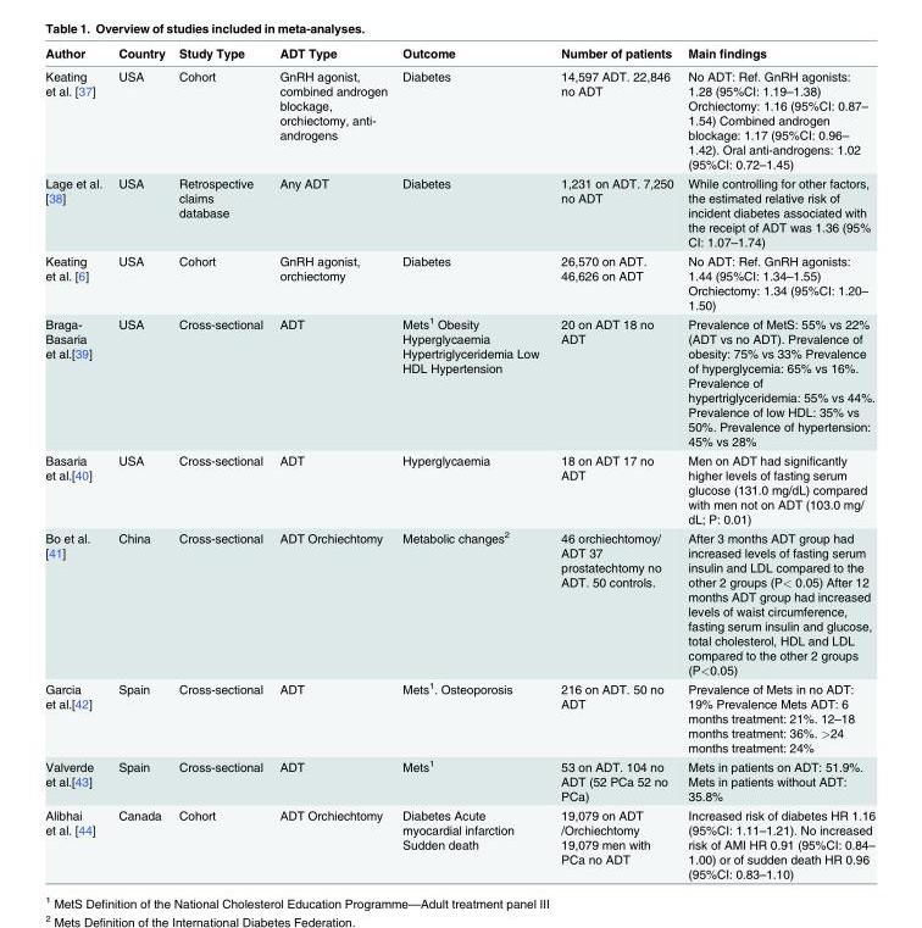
<table><thead><tr><td>Author</td><td>Country</td><td>Study Type</td><td>ADT Type</td><td>Outcome</td><td>Number of patients</td><td>Main findings</td></tr></thead><tbody><tr><td>Keating et al. [37]</td><td>USA</td><td>Cohort</td><td>GnRH agonist, combined androgen blockage, orchiectomy, anti- androgens</td><td>Diabetes</td><td>14,597 ADT. 22,846 no ADT</td><td>No ADT: Ref. GnRH agonists: 1.28 (95%CI: 1.19–1.38) Orchiectomy: 1.16 (95%CI: 0.87– 1.54) Combined androgen blockage: 1.17 (95%CI: 0.96– 1.42). Oral anti-androgens: 1.02 (95%CI: 0.72–1.45)</td></tr><tr><td>Lage et al. [38]</td><td>USA</td><td>Retrospective claims database</td><td>Any ADT</td><td>Diabetes</td><td>1,231 on ADT. 7,250 no ADT</td><td>While controlling for other factors, the estimated relative risk of incident diabetes associated with the receipt of ADT was 1.36 (95% CI: 1.07–1.74)</td></tr><tr><td>Keating et al. [6]</td><td>USA</td><td>Cohort</td><td>GnRH agonist, orchiectomy</td><td>Diabetes</td><td>26,570 on ADT. 46,626 on ADT</td><td>No ADT: Ref. GnRH agonists: 1.44 (95%CI: 1.34–1.55) Orchiectomy: 1.34 (95%CI: 1.20– 1.50)</td></tr><tr><td>Braga- Basaria et al.[39]</td><td>USA</td><td>Cross-sectional</td><td>ADT</td><td>Mets<sup>1</sup> Obesity Hyperglycaemia Hypertriglyceridemia Low HDL Hypertension</td><td>20 on ADT 18 no ADT</td><td>Prevalence of MetS: 55% vs 22% (ADT vs no ADT). Prevalence of obesity: 75% vs 33% Prevalence of hyperglycemia: 65% vs 16%. Prevalence of hypertriglyceridemia: 55% vs 44%. Prevalence of low HDL: 35% vs 50%. Prevalence of hypertension: 45% vs 28%</td></tr><tr><td>Basaria et al.[40]</td><td>USA</td><td>Cross-sectional</td><td>ADT</td><td>Hyperglycaemia</td><td>18 on ADT 17 no ADT</td><td>Men on ADT had significantly higher levels of fasting serum glucose (131.0 mg/dL) compared with men not on ADT (103.0 mg/ dL; P: 0.01)</td></tr><tr><td>Bo et al. [41]</td><td>China</td><td>Cross-sectional</td><td>ADT Orchiechtomy</td><td>Metabolic changes<sup>2</sup></td><td>46 orchiechtomoy/ ADT 37 prostatechtomy no ADT. 50 controls.</td><td>After 3 months ADT group had increased levels of fasting serum insulin and LDL compared to the other 2 groups (P&lt; 0.05) After 12 months ADT group had increased levels of waist circumference, fasting serum insulin and glucose, total cholesterol, HDL and LDL compared to the other 2 groups (P&lt;0.05)</td></tr><tr><td>Garcia et al.[42]</td><td>Spain</td><td>Cross-sectional</td><td>ADT</td><td>Mets<sup>1</sup>. Osteoporosis</td><td>216 on ADT. 50 no ADT</td><td>Prevalence of Mets in no ADT: 19% Prevalence Mets ADT: 6 months treatment: 21%. 12–18 months treatment: 36%. &gt;24 months treatment: 24%</td></tr><tr><td>Valverde et al.[43]</td><td>Spain</td><td>Cross-sectional</td><td>ADT</td><td>Mets<sup>1</sup></td><td>53 on ADT. 104 no ADT (52 PCa 52 no PCa)</td><td>Mets in patients on ADT: 51.9%. Mets in patients without ADT: 35.8%</td></tr><tr><td>Alibhai et al. [44]</td><td>Canada</td><td>Cohort</td><td>ADT Orchiechtomy</td><td>Diabetes Acute myocardial infarction Sudden death</td><td>19,079 on ADT /Orchiechtomy 19,079 men with PCa no ADT</td><td>Increased risk of diabetes HR 1.16 (95%CI: 1.11–1.21). No increased risk of AMI HR 0.91 (95%CI: 0.84– 1.00) or of sudden death HR 0.96 (95%CI: 0.83–1.10)</td></tr></tbody></table>